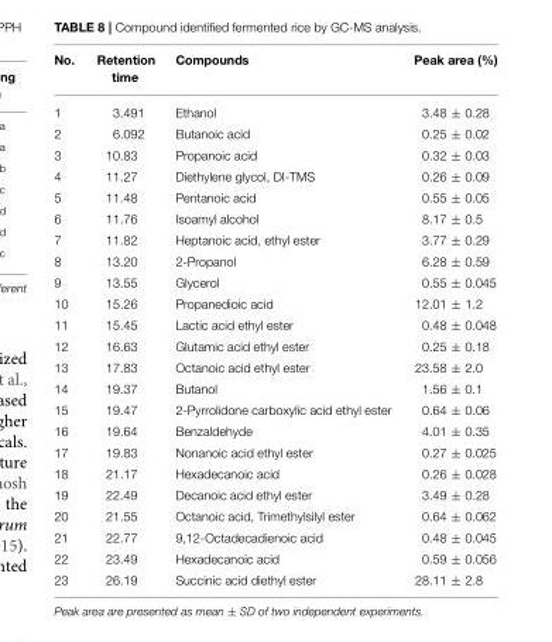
<table><thead><tr><td>No.</td><td>Retention time</td><td>Compounds</td><td>Peak area (%)</td></tr></thead><tbody><tr><td>1</td><td>3.491</td><td>Ethanol</td><td>3.48 ± 0.28</td></tr><tr><td>2</td><td>6.092</td><td>Butanoic acid</td><td>0.25 ± 0.02</td></tr><tr><td>3</td><td>10.83</td><td>Propanoic acid</td><td>0.32 ± 0.03</td></tr><tr><td>4</td><td>11.27</td><td>Diethylene glycol, DI-TMS</td><td>0.26 ± 0.09</td></tr><tr><td>5</td><td>11.48</td><td>Pentanoic acid</td><td>0.55 ± 0.05</td></tr><tr><td>6</td><td>11.76</td><td>Isoamyl alcohol</td><td>8.17 ± 0.5</td></tr><tr><td>7</td><td>11.82</td><td>Heptanoic acid, ethyl ester</td><td>3.77 ± 0.29</td></tr><tr><td>8</td><td>13.20</td><td>2-Propanol</td><td>6.28 ± 0.59</td></tr><tr><td>9</td><td>13.55</td><td>Glycerol</td><td>0.55 ± 0.045</td></tr><tr><td>10</td><td>15.26</td><td>Propanedioic acid</td><td>12.01 ± 1.2</td></tr><tr><td>11</td><td>15.45</td><td>Lactic acid ethyl ester</td><td>0.48 ± 0.048</td></tr><tr><td>12</td><td>16.63</td><td>Glutamic acid ethyl ester</td><td>0.25 ± 0.18</td></tr><tr><td>13</td><td>17.83</td><td>Octanoic acid ethyl ester</td><td>23.58 ± 2.0</td></tr><tr><td>14</td><td>19.37</td><td>Butanol</td><td>1.56 ± 0.1</td></tr><tr><td>15</td><td>19.47</td><td>2-Pyrrolidone carboxylic acid ethyl ester</td><td>0.64 ± 0.06</td></tr><tr><td>16</td><td>19.64</td><td>Benzaldehyde</td><td>4.01 ± 0.35</td></tr><tr><td>17</td><td>19.83</td><td>Nonanoic acid ethyl ester</td><td>0.27 ± 0.025</td></tr><tr><td>18</td><td>21.17</td><td>Hexadecanoic acid</td><td>0.26 ± 0.028</td></tr><tr><td>19</td><td>22.49</td><td>Decanoic acid ethyl ester</td><td>3.49 ± 0.28</td></tr><tr><td>20</td><td>21.55</td><td>Octanoic acid, Trimethylsilyl ester</td><td>0.64 ± 0.062</td></tr><tr><td>21</td><td>22.77</td><td>9,12-Octadecadienoic acid</td><td>0.48 ± 0.045</td></tr><tr><td>22</td><td>23.49</td><td>Hexadecanoic acid</td><td>0.59 ± 0.056</td></tr><tr><td>23</td><td>26.19</td><td>Succinic acid diethyl ester</td><td>28.11 ± 2.8</td></tr></tbody></table>